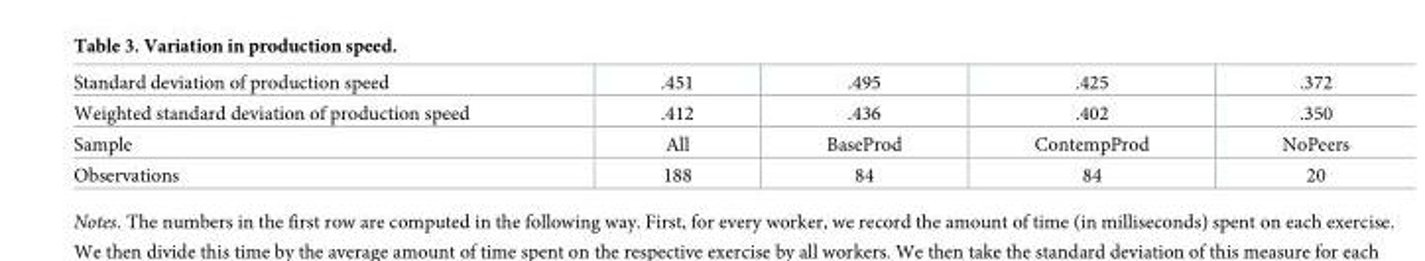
<table><tbody><tr><td>Standard deviation of production speed</td><td>.451</td><td>.495</td><td>.425</td><td>.372</td></tr><tr><td>Weighted standard deviation of production speed</td><td>.412</td><td>.436</td><td>.402</td><td>.350</td></tr><tr><td>Sample</td><td>All</td><td>BaseProd</td><td>ContempProd</td><td>NoPeers</td></tr><tr><td>Observations</td><td>188</td><td>84</td><td>84</td><td>20</td></tr></tbody></table>